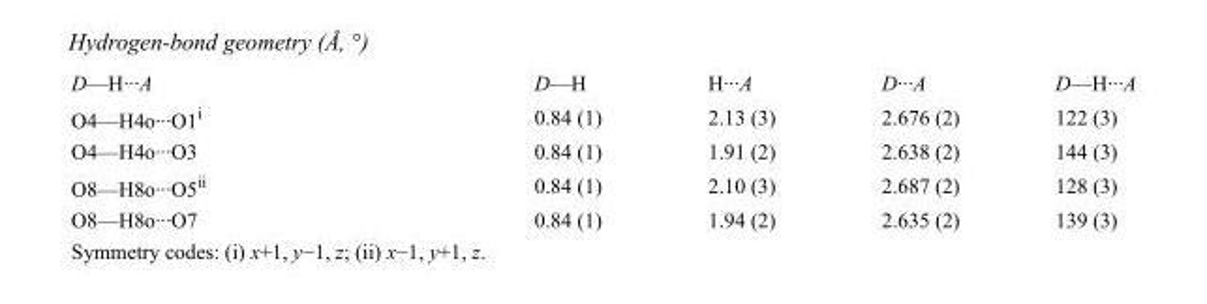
<table><tbody><tr><td>D—H···A</td><td>D—H</td><td>H···A</td><td>D···A</td><td>D—H···A</td></tr><tr><td>O4—H4o···O1<sup>i</sup></td><td>0.84 (1)</td><td>2.13 (3)</td><td>2.676 (2)</td><td>122 (3)</td></tr><tr><td>O4—H4o···O3</td><td>0.84 (1)</td><td>1.91 (2)</td><td>2.638 (2)</td><td>144 (3)</td></tr><tr><td>O8—H8o···O5<sup>ii</sup></td><td>0.84 (1)</td><td>2.10 (3)</td><td>2.687 (2)</td><td>128 (3)</td></tr><tr><td>O8—H8o···O7</td><td>0.84 (1)</td><td>1.94 (2)</td><td>2.635 (2)</td><td>139 (3)</td></tr></tbody></table>